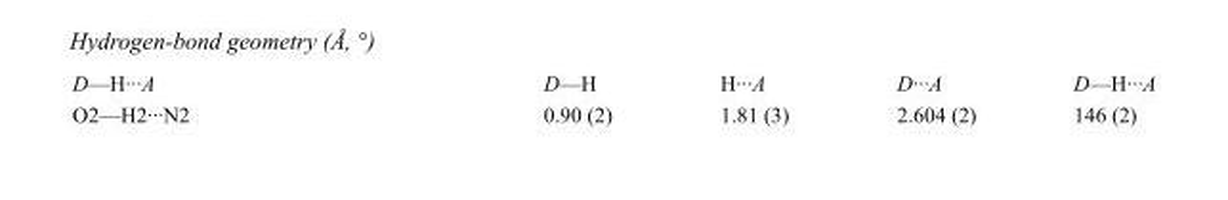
<table><tbody><tr><td>D—H···A</td><td>D—H</td><td>H···A</td><td>D···A</td><td>D—H···A</td></tr><tr><td>O2—H2···N2</td><td>0.90 (2)</td><td>1.81 (3)</td><td>2.604 (2)</td><td>146 (2)</td></tr></tbody></table>